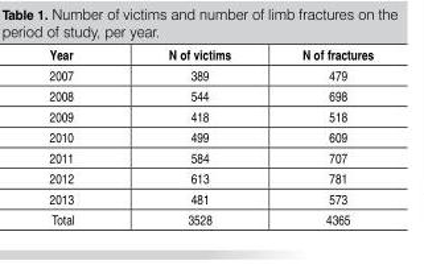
<table><thead><tr><td>Year</td><td>N of victims</td><td>N of fractures</td></tr></thead><tbody><tr><td>2007</td><td>389</td><td>479</td></tr><tr><td>2008</td><td>544</td><td>698</td></tr><tr><td>2009</td><td>418</td><td>518</td></tr><tr><td>2010</td><td>499</td><td>609</td></tr><tr><td>2011</td><td>584</td><td>707</td></tr><tr><td>2012</td><td>613</td><td>781</td></tr><tr><td>2013</td><td>481</td><td>573</td></tr><tr><td>Total</td><td>3528</td><td>4365</td></tr></tbody></table>